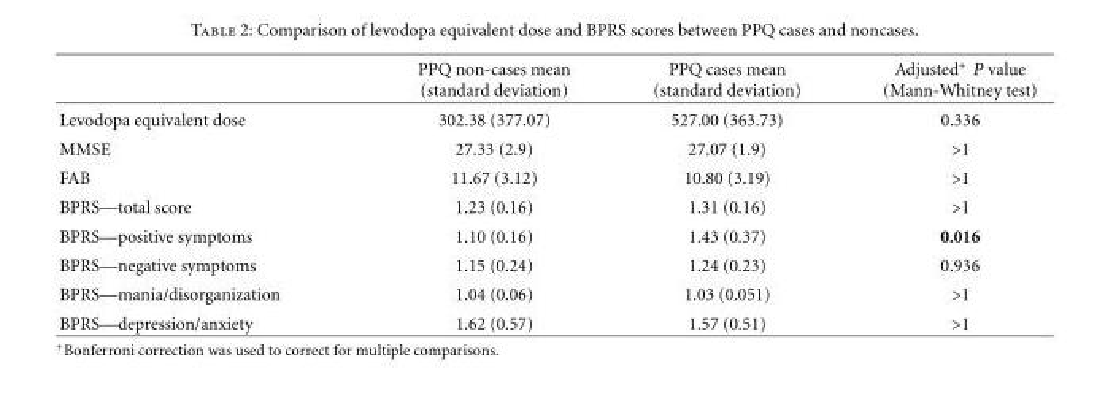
<table><thead><tr><td></td><td>PPQ non-cases mean (standard deviation)</td><td>PPQ cases mean (standard deviation)</td><td>Adjusted<sup>+</sup> P value (Mann-Whitney test)</td></tr></thead><tbody><tr><td>Levodopa equivalent dose</td><td>302.38 (377.07)</td><td>527.00 (363.73)</td><td>0.336</td></tr><tr><td>MMSE</td><td>27.33 (2.9)</td><td>27.07 (1.9)</td><td>&gt;1</td></tr><tr><td>FAB</td><td>11.67 (3.12)</td><td>10.80 (3.19)</td><td>&gt;1</td></tr><tr><td>BPRS—total score</td><td>1.23 (0.16)</td><td>1.31 (0.16)</td><td>&gt;1</td></tr><tr><td>BPRS—positive symptoms</td><td>1.10 (0.16)</td><td>1.43 (0.37)</td><td>0.016</td></tr><tr><td>BPRS—negative symptoms</td><td>1.15 (0.24)</td><td>1.24 (0.23)</td><td>0.936</td></tr><tr><td>BPRS—mania/disorganization</td><td>1.04 (0.06)</td><td>1.03 (0.051)</td><td>&gt;1</td></tr><tr><td>BPRS—depression/anxiety</td><td>1.62 (0.57)</td><td>1.57 (0.51)</td><td>&gt;1</td></tr></tbody></table>